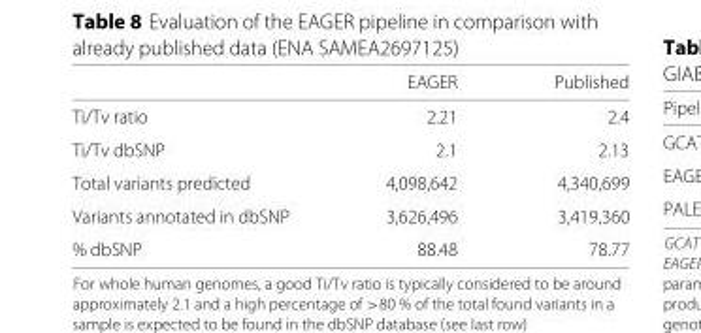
<table><thead><tr><td></td><td>EAGER</td><td>Published</td></tr></thead><tbody><tr><td>Ti/Tv ratio</td><td>2.21</td><td>2.4</td></tr><tr><td>Ti/Tv dbSNP</td><td>2.1</td><td>2.13</td></tr><tr><td>Total variants predicted</td><td>4,098,642</td><td>4,340,699</td></tr><tr><td>Variants annotated in dbSNP</td><td>3,626,496</td><td>3,419,360</td></tr><tr><td>% dbSNP</td><td>88.48</td><td>78.77</td></tr></tbody></table>